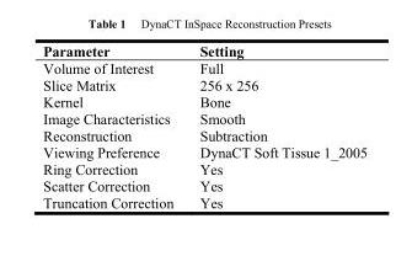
<table><thead><tr><td>Parameter</td><td>Setting</td></tr></thead><tbody><tr><td>Volume of Interest</td><td>Full</td></tr><tr><td>Slice Matrix</td><td>256 x 256</td></tr><tr><td>Kernel</td><td>Bone</td></tr><tr><td>Image Characteristics</td><td>Smooth</td></tr><tr><td>Reconstruction</td><td>Subtraction</td></tr><tr><td>Viewing Preference</td><td>DynaCT Soft Tissue 1_2005</td></tr><tr><td>Ring Correction</td><td>Yes</td></tr><tr><td>Scatter Correction</td><td>Yes</td></tr><tr><td>Truncation Correction</td><td>Yes</td></tr></tbody></table>